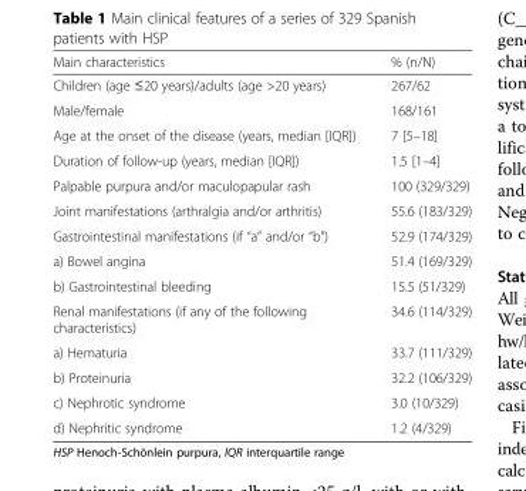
<table><thead><tr><td>Main characteristics</td><td>% (n/N)</td></tr></thead><tbody><tr><td>Children (age ≤20 years)/adults (age &gt;20 years)</td><td>267/62</td></tr><tr><td>Male/female</td><td>168/161</td></tr><tr><td>Age at the onset of the disease (years, median [IQR])</td><td>7 [5–18]</td></tr><tr><td>Duration of follow-up (years, median [IQR])</td><td>1.5 [1–4]</td></tr><tr><td>Palpable purpura and/or maculopapular rash</td><td>100 (329/329)</td></tr><tr><td>Joint manifestations (arthralgia and/or arthritis)</td><td>55.6 (183/329)</td></tr><tr><td>Gastrointestinal manifestations (if “a” and/or “b”)</td><td>52.9 (174/329)</td></tr><tr><td>a) Bowel angina</td><td>51.4 (169/329)</td></tr><tr><td>b) Gastrointestinal bleeding</td><td>15.5 (51/329)</td></tr><tr><td>Renal manifestations (if any of the following characteristics)</td><td>34.6 (114/329)</td></tr><tr><td>a) Hematuria</td><td>33.7 (111/329)</td></tr><tr><td>b) Proteinuria</td><td>32.2 (106/329)</td></tr><tr><td>c) Nephrotic syndrome</td><td>3.0 (10/329)</td></tr><tr><td>d) Nephritic syndrome</td><td>1.2 (4/329)</td></tr></tbody></table>